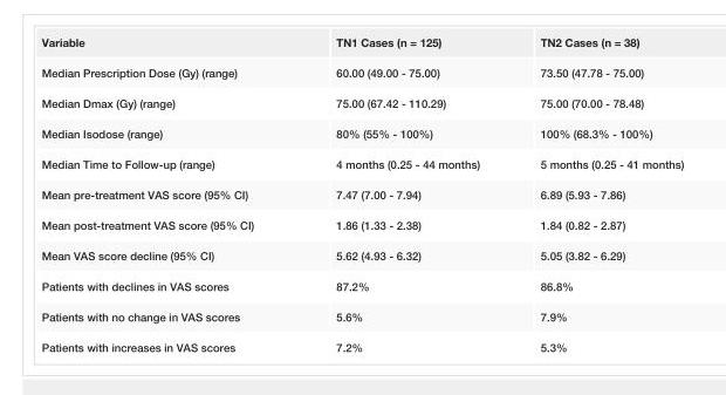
<table><tbody><tr><td>Variable</td><td>TN1 Cases (n = 125)</td><td>TN2 Cases (n = 38)</td></tr><tr><td>Median Prescription Dose (Gy) (range)</td><td>60.00 (49.00 - 75.00)</td><td>73.50 (47.78 - 75.00)</td></tr><tr><td>Median Dmax (Gy) (range)</td><td>75.00 (67.42 - 110.29)</td><td>75.00 (70.00 - 78.48)</td></tr><tr><td>Median Isodose (range)</td><td>80% (55% - 100%)</td><td>100% (68.3% - 100%)</td></tr><tr><td>Median Time to Follow-up (range)</td><td>4 months (0.25 - 44 months)</td><td>5 months (0.25 - 41 months)</td></tr><tr><td>Mean pre-treatment VAS score (95% CI)</td><td>7.47 (7.00 - 7.94)</td><td>6.89 (5.93 - 7.86)</td></tr><tr><td>Mean post-treatment VAS score (95% CI)</td><td>1.86 (1.33 - 2.38)</td><td>1.84 (0.82 - 2.87)</td></tr><tr><td>Mean VAS score decline (95% CI)</td><td>5.62 (4.93 - 6.32)</td><td>5.05 (3.82 - 6.29)</td></tr><tr><td>Patients with declines in VAS scores</td><td>87.2%</td><td>86.8%</td></tr><tr><td>Patients with no change in VAS scores</td><td>5.6%</td><td>7.9%</td></tr><tr><td>Patients with increases in VAS scores</td><td>7.2%</td><td>5.3%</td></tr></tbody></table>